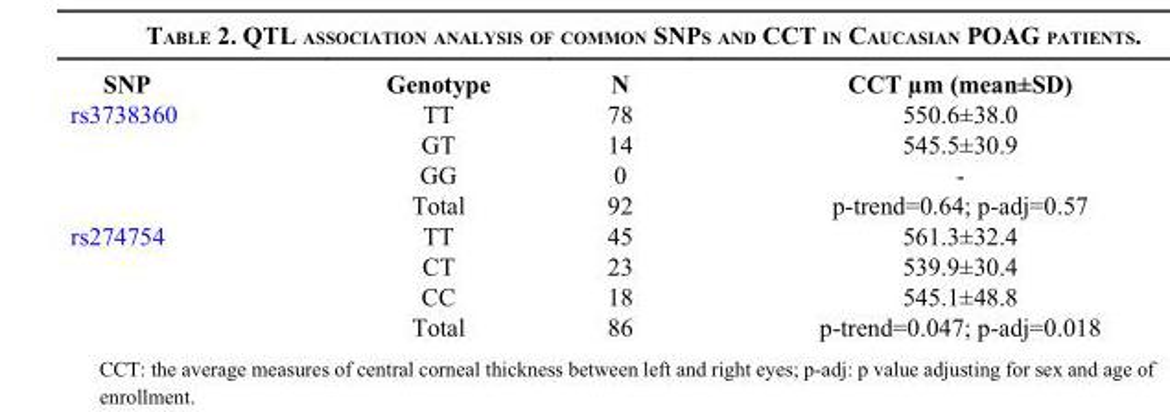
<table><thead><tr><td>SNP</td><td>Genotype</td><td>N</td><td>CCT µm (mean±SD)</td></tr></thead><tbody><tr><td rowspan="4">rs3738360</td><td>TT</td><td>78</td><td>550.6±38.0</td></tr><tr><td>GT</td><td>14</td><td>545.5±30.9</td></tr><tr><td>GG</td><td>0</td><td>-</td></tr><tr><td>Total</td><td>92</td><td>p-trend=0.64; p-adj=0.57</td></tr><tr><td rowspan="4">rs274754</td><td>TT</td><td>45</td><td>561.3±32.4</td></tr><tr><td>CT</td><td>23</td><td>539.9±30.4</td></tr><tr><td>CC</td><td>18</td><td>545.1±48.8</td></tr><tr><td>Total</td><td>86</td><td>p-trend=0.047; p-adj=0.018</td></tr></tbody></table>